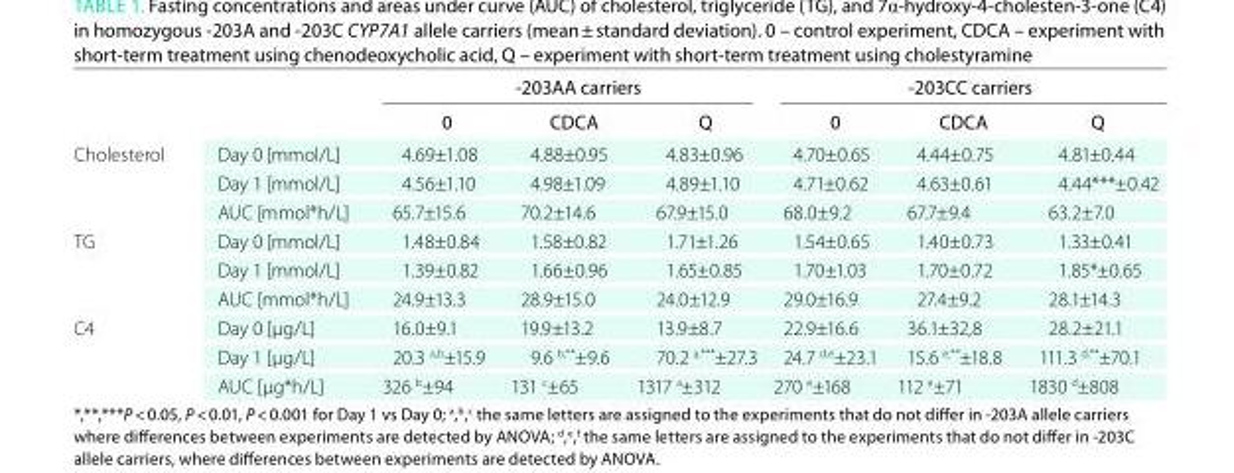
<table><thead><tr><td rowspan="2"></td><td rowspan="2"></td><td colspan="3">-203aa carriers</td><td colspan="3">-203cc carriers</td></tr><tr><td>0</td><td>cdca</td><td>Q</td><td>0</td><td>cdca</td><td>Q</td></tr></thead><tbody><tr><td rowspan="3">Cholesterol</td><td>Day 0 [mmol/L]</td><td>4.69±1.08</td><td>4.88±0.95</td><td>4.83±0.96</td><td>4.70±0.65</td><td>4.44±0.75</td><td>4.81±0.44</td></tr><tr><td>Day 1 [mmol/L]</td><td>4.56±1.10</td><td>4.98±1.09</td><td>4.89±1.10</td><td>4.71±0.62</td><td>4.63±0.61</td><td>4.44***±0.42</td></tr><tr><td>AUC [mmol*h/L]</td><td>65.7±15.6</td><td>70.2±14.6</td><td>67.9±15.0</td><td>68.0±9.2</td><td>67.7±9.4</td><td>63.2±7.0</td></tr><tr><td rowspan="3">TG</td><td>Day 0 [mmol/L]</td><td>1.48±0.84</td><td>1.58±0.82</td><td>1.71±1.26</td><td>1.54±0.65</td><td>1.40±0.73</td><td>1.33±0.41</td></tr><tr><td>Day 1 [mmol/L]</td><td>1.39±0.82</td><td>1.66±0.96</td><td>1.65±0.85</td><td>1.70±1.03</td><td>1.70±0.72</td><td>1.85*±0.65</td></tr><tr><td>AUC [mmol*h/L]</td><td>24.9±13.3</td><td>28.9±15.0</td><td>24.0±12.9</td><td>29.0±16.9</td><td>27.4±9.2</td><td>28.1±14.3</td></tr><tr><td rowspan="3">C4</td><td>Day 0 [μg/L]</td><td>16.0±9.1</td><td>19.9±13.2</td><td>13.9±8.7</td><td>22.9±16.6</td><td>36.1±32,8</td><td>28.2±21.1</td></tr><tr><td>Day 1 [μg/L]</td><td>20.3 <sup>a,b</sup>±15.9</td><td>9.6 <sup>b,**</sup>±9.6</td><td>70.2 <sup>a,***</sup>±27.3</td><td>24.7 <sup>d,e</sup>±23.1</td><td>15.6 <sup>e,**</sup>±18.8</td><td>111.3 <sup>d,**</sup>±70.1</td></tr><tr><td>AUC [μg*h/L]</td><td>326 <sup>b</sup>±94</td><td>131 <sup>c</sup>±65</td><td>1317 <sup>a</sup>±312</td><td>270 <sup>e</sup>±168</td><td>112 <sup>e</sup>±71</td><td>1830 <sup>d</sup>±808</td></tr></tbody></table>